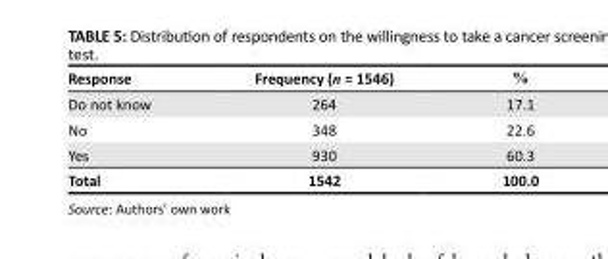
<table><thead><tr><td>Response</td><td>Frequency (n = 1546)</td><td>%</td></tr></thead><tbody><tr><td>Do not know</td><td>264</td><td>17.1</td></tr><tr><td>No</td><td>348</td><td>22.6</td></tr><tr><td>Yes</td><td>930</td><td>60.3</td></tr><tr><td>Total</td><td>1542</td><td>100.0</td></tr></tbody></table>